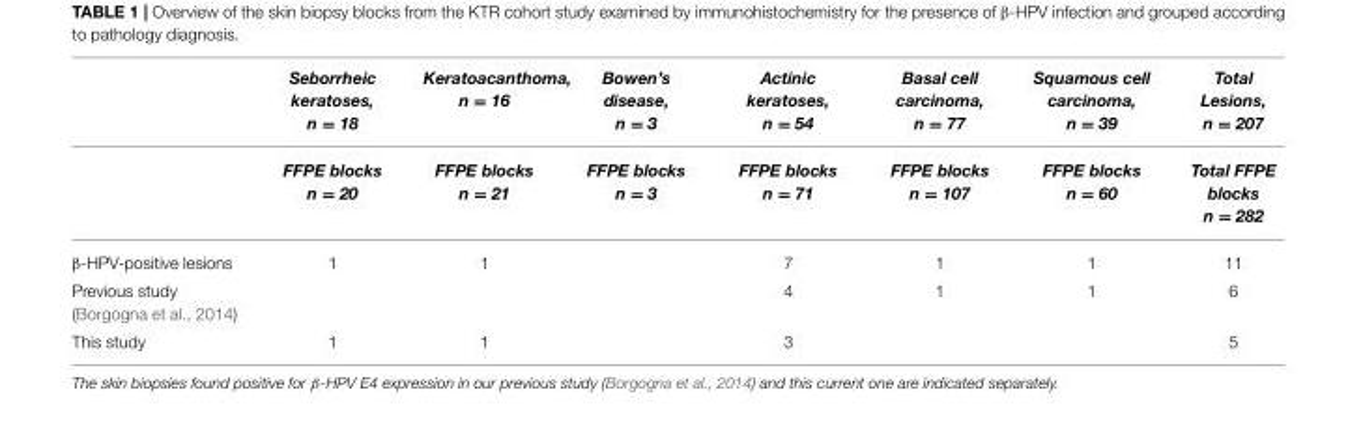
<table><thead><tr><td rowspan="2"></td><td rowspan="2">Seborrheic keratoses, n = 18 FFPE blocks n = 20</td><td rowspan="2">Keratoacanthoma, n = 16 FFPE blocks n = 21</td><td rowspan="2">Bowen’s disease, n = 3 FFPE blocks n = 3</td><td rowspan="2">Actinic keratoses, n = 54 FFPE blocks n = 71</td><td rowspan="2">Basal cell carcinoma, n = 77 FFPE blocks n = 107</td><td rowspan="2">Squamous cell carcinoma, n = 39 FFPE blocks n = 60</td><td rowspan="2">Total Lesions, n = 207 Total FFPE blocks n = 282</td></tr><tr></tr></thead><tbody><tr><td>β-HPV-positive lesions</td><td>1</td><td>1</td><td></td><td>7</td><td>1</td><td>1</td><td>11</td></tr><tr><td>Previous study (Borgogna et al., 2014)</td><td></td><td></td><td></td><td>4</td><td>1</td><td>1</td><td>6</td></tr><tr><td>This study</td><td>1</td><td>1</td><td></td><td>3</td><td></td><td></td><td>5</td></tr></tbody></table>